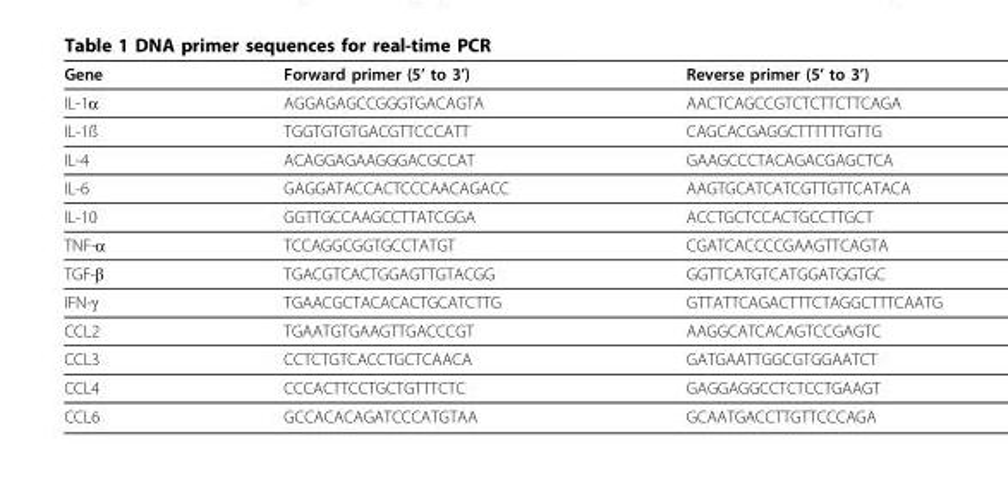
<table><thead><tr><td>Gene</td><td>Forward primer (5’ to 3’)</td><td>Reverse primer (5’ to 3’)</td></tr></thead><tbody><tr><td>IL-1α</td><td>AGGAGAGCCGGGTGACAGTA</td><td>AACTCAGCCGTCTCTTCTTCAGA</td></tr><tr><td>IL-1ß</td><td>TGGTGTGTGACGTTCCCATT</td><td>CAGCACGAGGCTTTTTTGTTG</td></tr><tr><td>IL-4</td><td>ACAGGAGAAGGGACGCCAT</td><td>GAAGCCCTACAGACGAGCTCA</td></tr><tr><td>IL-6</td><td>GAGGATACCACTCCCAACAGACC</td><td>AAGTGCATCATCGTTGTTCATACA</td></tr><tr><td>IL-10</td><td>GGTTGCCAAGCCTTATCGGA</td><td>ACCTGCTCCACTGCCTTGCT</td></tr><tr><td>TNF-α</td><td>TCCAGGCGGTGCCTATGT</td><td>CGATCACCCCGAAGTTCAGTA</td></tr><tr><td>TGF-β</td><td>TGACGTCACTGGAGTTGTACGG</td><td>GGTTCATGTCATGGATGGTGC</td></tr><tr><td>IFN-γ</td><td>TGAACGCTACACACTGCATCTTG</td><td>GTTATTCAGACTTTCTAGGCTTTCAATG</td></tr><tr><td>CCL2</td><td>TGAATGTGAAGTTGACCCGT</td><td>AAGGCATCACAGTCCGAGTC</td></tr><tr><td>CCL3</td><td>CCTCTGTCACCTGCTCAACA</td><td>GATGAATTGGCGTGGAATCT</td></tr><tr><td>CCL4</td><td>CCCACTTCCTGCTGTTTCTC</td><td>GAGGAGGCCTCTCCTGAAGT</td></tr><tr><td>CCL6</td><td>GCCACACAGATCCCATGTAA</td><td>GCAATGACCTTGTTCCCAGA</td></tr></tbody></table>